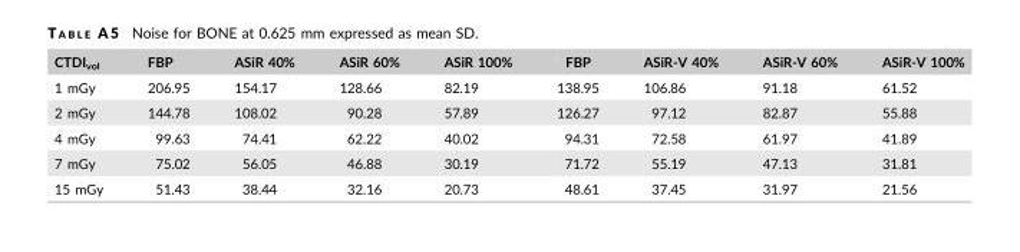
<table><thead><tr><td>CTDI<sub>vol</sub></td><td>FBP</td><td>ASiR 40%</td><td>ASiR 60%</td><td>ASiR 100%</td><td>FBP</td><td>ASiR-V 40%</td><td>ASiR-V 60%</td><td>ASiR-V 100%</td></tr></thead><tbody><tr><td>1 mGy</td><td>206.95</td><td>154.17</td><td>128.66</td><td>82.19</td><td>138.95</td><td>106.86</td><td>91.18</td><td>61.52</td></tr><tr><td>2 mGy</td><td>144.78</td><td>108.02</td><td>90.28</td><td>57.89</td><td>126.27</td><td>97.12</td><td>82.87</td><td>55.88</td></tr><tr><td>4 mGy</td><td>99.63</td><td>74.41</td><td>62.22</td><td>40.02</td><td>94.31</td><td>72.58</td><td>61.97</td><td>41.89</td></tr><tr><td>7 mGy</td><td>75.02</td><td>56.05</td><td>46.88</td><td>30.19</td><td>71.72</td><td>55.19</td><td>47.13</td><td>31.81</td></tr><tr><td>15 mGy</td><td>51.43</td><td>38.44</td><td>32.16</td><td>20.73</td><td>48.61</td><td>37.45</td><td>31.97</td><td>21.56</td></tr></tbody></table>